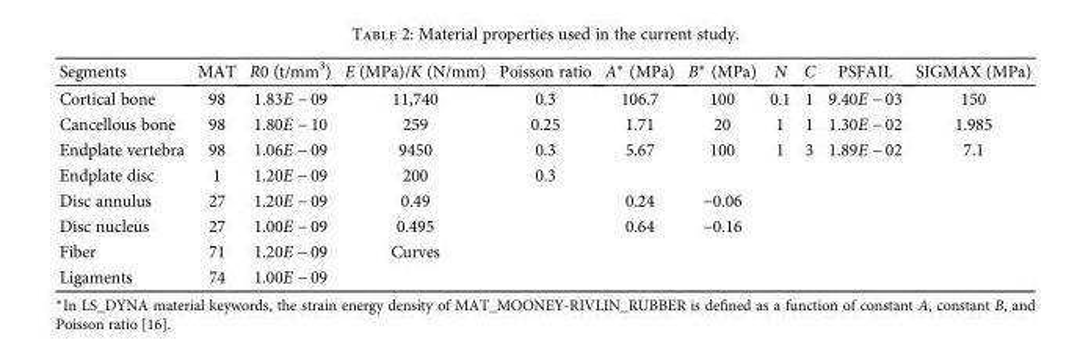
<table><thead><tr><td>Segments</td><td>MAT</td><td>R0 (t/mm<sup>3</sup>)</td><td>E (MPa)/K (N/mm)</td><td>Poisson ratio</td><td>A∗ (MPa)</td><td>B∗ (MPa)</td><td>N</td><td>C</td><td>PSFAIL</td><td>SIGMAX (MPa)</td></tr></thead><tbody><tr><td>Cortical bone</td><td>98</td><td>1.83E − 09</td><td>11,740</td><td>0.3</td><td>106.7</td><td>100</td><td>0.1</td><td>1</td><td>9.40E − 03</td><td>150</td></tr><tr><td>Cancellous bone</td><td>98</td><td>1.80E − 10</td><td>259</td><td>0.25</td><td>1.71</td><td>20</td><td>1</td><td>1</td><td>1.30E − 02</td><td>1.985</td></tr><tr><td>Endplate vertebra</td><td>98</td><td>1.06E − 09</td><td>9450</td><td>0.3</td><td>5.67</td><td>100</td><td>1</td><td>3</td><td>1.89E − 02</td><td>7.1</td></tr><tr><td>Endplate disc</td><td>1</td><td>1.20E − 09</td><td>200</td><td>0.3</td><td></td><td></td><td></td><td></td><td></td><td></td></tr><tr><td>Disc annulus</td><td>27</td><td>1.20E − 09</td><td>0.49</td><td></td><td>0.24</td><td>−0.06</td><td></td><td></td><td></td><td></td></tr><tr><td>Disc nucleus</td><td>27</td><td>1.00E − 09</td><td>0.495</td><td></td><td>0.64</td><td>−0.16</td><td></td><td></td><td></td><td></td></tr><tr><td>Fiber</td><td>71</td><td>1.20E − 09</td><td>Curves</td><td></td><td></td><td></td><td></td><td></td><td></td><td></td></tr><tr><td>Ligaments</td><td>74</td><td>1.00E − 09</td><td></td><td></td><td></td><td></td><td></td><td></td><td></td><td></td></tr></tbody></table>